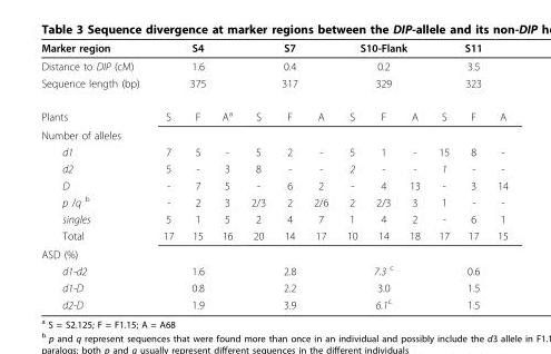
<table><thead><tr><td rowspan="4">Marker region Distance to DIP (cM) Sequence length (bp) Plants</td><td rowspan="3" colspan="3">S4 1.6 375</td><td rowspan="3" colspan="3">S7 0.4 317</td><td rowspan="3" colspan="3">S10-Flank 0.2 329</td><td rowspan="3" colspan="3">S11 3.5 323</td></tr><tr></tr><tr></tr><tr><td>S</td><td>F</td><td>A<sup>a</sup></td><td>S</td><td>F</td><td>A</td><td>S</td><td>F</td><td>A</td><td>S</td><td>F</td><td>A</td></tr></thead><tbody><tr><td colspan="13">Number of alleles</td></tr><tr><td>d1</td><td>7</td><td>5</td><td>-</td><td>5</td><td>2</td><td>-</td><td>5</td><td>1</td><td>-</td><td>15</td><td>8</td><td>-</td></tr><tr><td>d2</td><td>5</td><td>-</td><td>3</td><td>8</td><td>-</td><td>-</td><td>2</td><td>-</td><td>-</td><td>1</td><td>-</td><td>-</td></tr><tr><td>D</td><td>-</td><td>7</td><td>5</td><td>-</td><td>6</td><td>2</td><td>-</td><td>4</td><td>13</td><td>-</td><td>3</td><td>14</td></tr><tr><td>p /q <sup>b</sup></td><td>-</td><td>2</td><td>3</td><td>2/3</td><td>2</td><td>2/6</td><td>2</td><td>2/3</td><td>3</td><td>1</td><td>-</td><td>-</td></tr><tr><td>singles</td><td>5</td><td>1</td><td>5</td><td>2</td><td>4</td><td>7</td><td>1</td><td>4</td><td>2</td><td>-</td><td>6</td><td>1</td></tr><tr><td>Total</td><td>17</td><td>15</td><td>16</td><td>20</td><td>14</td><td>17</td><td>10</td><td>14</td><td>18</td><td>17</td><td>17</td><td>15</td></tr><tr><td colspan="13">ASD (%)</td></tr><tr><td>d1-d2</td><td colspan="3">1.6</td><td colspan="3">2.8</td><td colspan="3">7.3 <sup>c</sup></td><td colspan="3">0.6</td></tr><tr><td>d1-D</td><td colspan="3">0.8</td><td colspan="3">2.2</td><td colspan="3">3.0</td><td colspan="3">1.5</td></tr><tr><td>d2-D</td><td colspan="3">1.9</td><td colspan="3">3.9</td><td colspan="3">6.1<sup>c</sup></td><td colspan="3">1.5</td></tr></tbody></table>